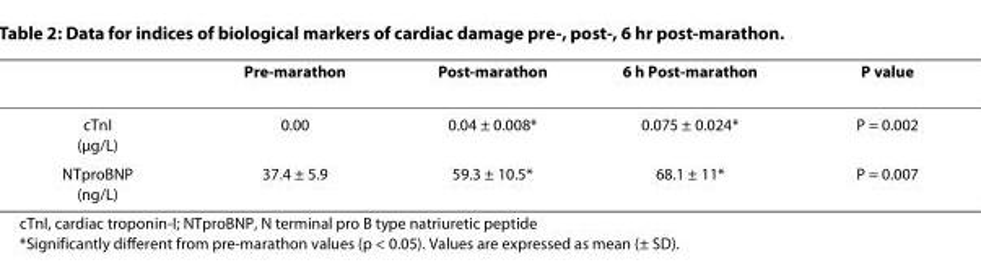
<table><thead><tr><td></td><td>Pre-marathon</td><td>Post-marathon</td><td>6 h Post-marathon</td><td>P value</td></tr></thead><tbody><tr><td>cTnI (μg/L)</td><td>0.00</td><td>0.04 ± 0.008*</td><td>0.075 ± 0.024*</td><td>P = 0.002</td></tr><tr><td>NTproBNP (ng/L)</td><td>37.4 ± 5.9</td><td>59.3 ± 10.5*</td><td>68.1 ± 11*</td><td>P = 0.007</td></tr></tbody></table>